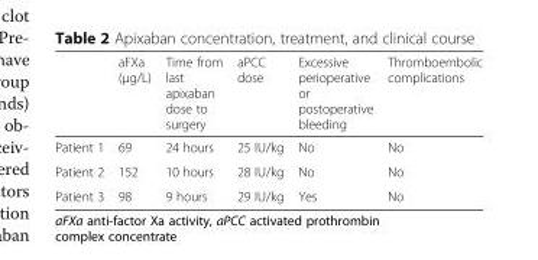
<table><thead><tr><td></td><td>aFXa (μg/L)</td><td>Time from last apixaban dose to surgery</td><td>aPCC dose</td><td>Excessive perioperative or postoperative bleeding</td><td>Thromboembolic complications</td></tr></thead><tbody><tr><td>Patient 1</td><td>69</td><td>24 hours</td><td>25 IU/kg</td><td>No</td><td>No</td></tr><tr><td>Patient 2</td><td>152</td><td>10 hours</td><td>28 IU/kg</td><td>No</td><td>No</td></tr><tr><td>Patient 3</td><td>98</td><td>9 hours</td><td>29 IU/kg</td><td>Yes</td><td>No</td></tr></tbody></table>